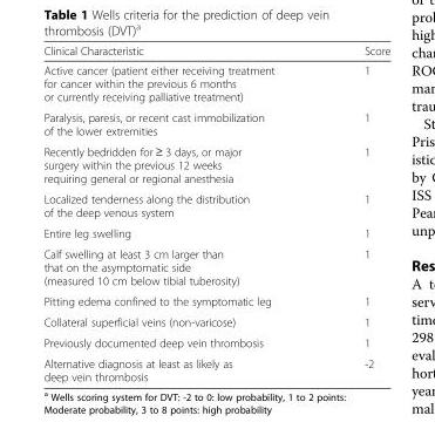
<table><thead><tr><td>Clinical Characteristic</td><td>Score</td></tr></thead><tbody><tr><td>Active cancer (patient either receiving treatment for cancer within the previous 6 months or currently receiving palliative treatment)</td><td>1</td></tr><tr><td>Paralysis, paresis, or recent cast immobilization of the lower extremities</td><td>1</td></tr><tr><td>Recently bedridden for ≥ 3 days, or major surgery within the previous 12 weeks requiring general or regional anesthesia</td><td>1</td></tr><tr><td>Localized tenderness along the distribution of the deep venous system</td><td>1</td></tr><tr><td>Entire leg swelling</td><td>1</td></tr><tr><td>Calf swelling at least 3 cm larger than that on the asymptomatic side (measured 10 cm below tibial tuberosity)</td><td>1</td></tr><tr><td>Pitting edema confined to the symptomatic leg</td><td>1</td></tr><tr><td>Collateral superficial veins (non-varicose)</td><td>1</td></tr><tr><td>Previously documented deep vein thrombosis</td><td>1</td></tr><tr><td>Alternative diagnosis at least as likely as deep vein thrombosis</td><td>-2</td></tr></tbody></table>